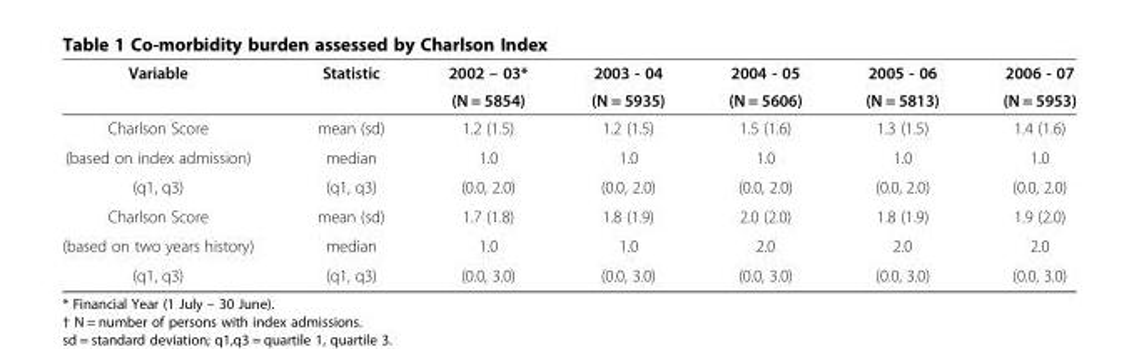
<table><thead><tr><td rowspan="2">Variable</td><td rowspan="2">Statistic</td><td rowspan="2">2002 – 03* (N = 5854)</td><td rowspan="2">2003 - 04 (N = 5935)</td><td rowspan="2">2004 - 05 (N = 5606)</td><td rowspan="2">2005 - 06 (N = 5813)</td><td rowspan="2">2006 - 07 (N = 5953)</td></tr><tr></tr></thead><tbody><tr><td>Charlson Score</td><td>mean (sd)</td><td>1.2 (1.5)</td><td>1.2 (1.5)</td><td>1.5 (1.6)</td><td>1.3 (1.5)</td><td>1.4 (1.6)</td></tr><tr><td>(based on index admission)</td><td>median</td><td>1.0</td><td>1.0</td><td>1.0</td><td>1.0</td><td>1.0</td></tr><tr><td>(q1, q3)</td><td>(q1, q3)</td><td>(0.0, 2.0)</td><td>(0.0, 2.0)</td><td>(0.0, 2.0)</td><td>(0.0, 2.0)</td><td>(0.0, 2.0)</td></tr><tr><td>Charlson Score</td><td>mean (sd)</td><td>1.7 (1.8)</td><td>1.8 (1.9)</td><td>2.0 (2.0)</td><td>1.8 (1.9)</td><td>1.9 (2.0)</td></tr><tr><td>(based on two years history)</td><td>median</td><td>1.0</td><td>1.0</td><td>2.0</td><td>2.0</td><td>2.0</td></tr><tr><td>(q1, q3)</td><td>(q1, q3)</td><td>(0.0, 3.0)</td><td>(0.0, 3.0)</td><td>(0.0, 3.0)</td><td>(0.0, 3.0)</td><td>(0.0, 3.0)</td></tr></tbody></table>